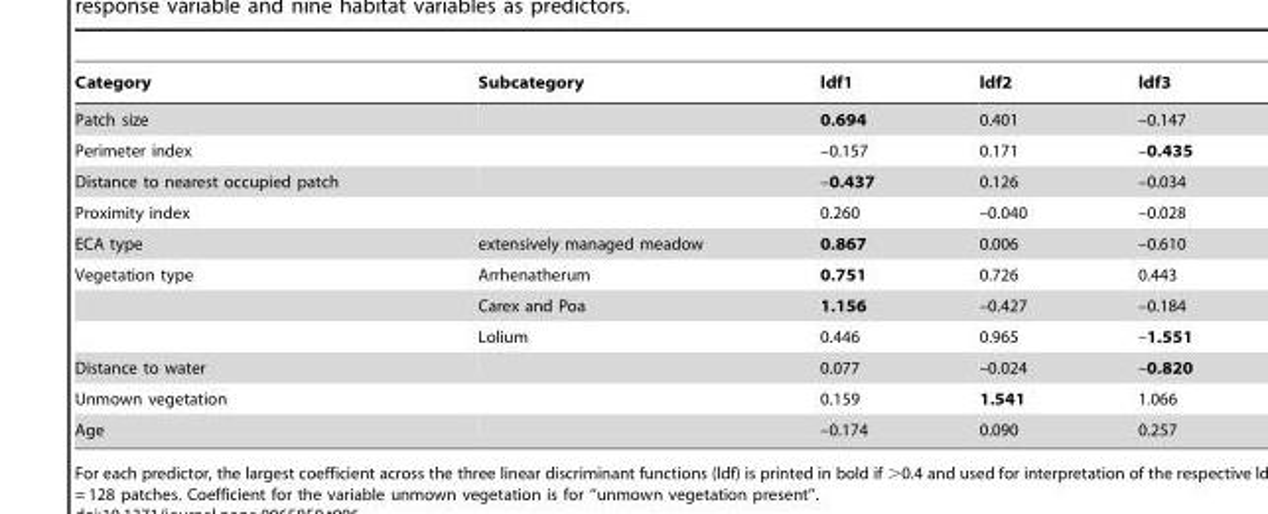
<table><thead><tr><td>Category</td><td>Subcategory</td><td>ldf1</td><td>ldf2</td><td>ldf3</td></tr></thead><tbody><tr><td>Patch size</td><td></td><td>0.694</td><td>0.401</td><td>–0.147</td></tr><tr><td>Perimeter index</td><td></td><td>–0.157</td><td>0.171</td><td>–0.435</td></tr><tr><td>Distance to nearest occupied patch</td><td></td><td>–0.437</td><td>0.126</td><td>–0.034</td></tr><tr><td>Proximity index</td><td></td><td>0.260</td><td>–0.040</td><td>–0.028</td></tr><tr><td>ECA type</td><td>extensively managed meadow</td><td>0.867</td><td>0.006</td><td>–0.610</td></tr><tr><td rowspan="3">Vegetation type</td><td>Arrhenatherum</td><td>0.751</td><td>0.726</td><td>0.443</td></tr><tr><td>Carex and Poa</td><td>1.156</td><td>–0.427</td><td>–0.184</td></tr><tr><td>Lolium</td><td>0.446</td><td>0.965</td><td>–1.551</td></tr><tr><td>Distance to water</td><td></td><td>0.077</td><td>–0.024</td><td>–0.820</td></tr><tr><td>Unmown vegetation</td><td></td><td>0.159</td><td>1.541</td><td>1.066</td></tr><tr><td>Age</td><td></td><td>–0.174</td><td>0.090</td><td>0.257</td></tr></tbody></table>